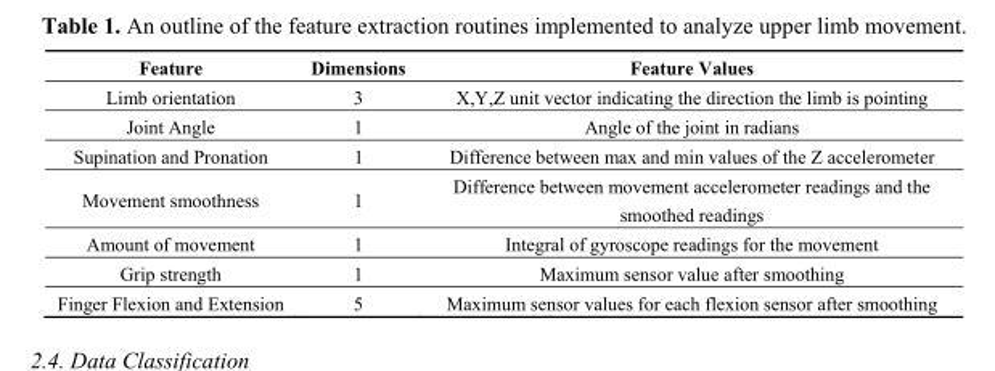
<table><thead><tr><td>Feature</td><td>Dimensions</td><td>Feature Values</td></tr></thead><tbody><tr><td>Limb orientation</td><td>3</td><td>X,Y,Z unit vector indicating the direction the limb is pointing</td></tr><tr><td>Joint Angle</td><td>1</td><td>Angle of the joint in radians</td></tr><tr><td>Supination and Pronation</td><td>1</td><td>Difference between max and min values of the Z accelerometer</td></tr><tr><td>Movement smoothness</td><td>1</td><td>Difference between movement accelerometer readings and the smoothed readings</td></tr><tr><td>Amount of movement</td><td>1</td><td>Integral of gyroscope readings for the movement</td></tr><tr><td>Grip strength</td><td>1</td><td>Maximum sensor value after smoothing</td></tr><tr><td>Finger Flexion and Extension</td><td>5</td><td>Maximum sensor values for each flexion sensor after smoothing</td></tr></tbody></table>